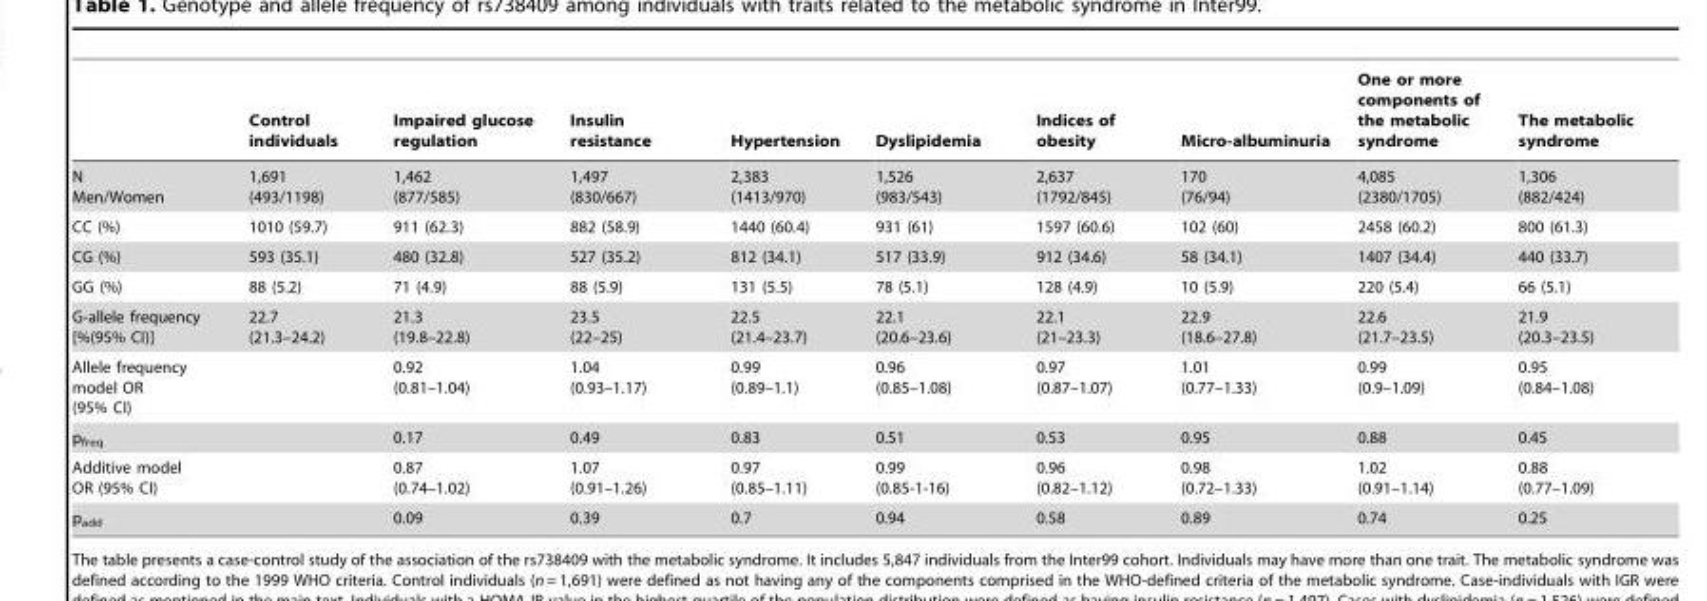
<table><thead><tr><td></td><td>Control individuals</td><td>Impaired glucose regulation</td><td>Insulin resistance</td><td>Hypertension</td><td>Dyslipidemia</td><td>Indices of obesity</td><td>Micro-albuminuria</td><td>One or more components of the metabolic syndrome</td><td>The metabolic syndrome</td></tr></thead><tbody><tr><td>N Men/Women</td><td>1,691 (493/1198)</td><td>1,462 (877/585)</td><td>1,497 (830/667)</td><td>2,383 (1413/970)</td><td>1,526 (983/543)</td><td>2,637 (1792/845)</td><td>170 (76/94)</td><td>4,085 (2380/1705)</td><td>1,306 (882/424)</td></tr><tr><td>CC (%)</td><td>1010 (59.7)</td><td>911 (62.3)</td><td>882 (58.9)</td><td>1440 (60.4)</td><td>931 (61)</td><td>1597 (60.6)</td><td>102 (60)</td><td>2458 (60.2)</td><td>800 (61.3)</td></tr><tr><td>CG (%)</td><td>593 (35.1)</td><td>480 (32.8)</td><td>527 (35.2)</td><td>812 (34.1)</td><td>517 (33.9)</td><td>912 (34.6)</td><td>58 (34.1)</td><td>1407 (34.4)</td><td>440 (33.7)</td></tr><tr><td>GG (%)</td><td>88 (5.2)</td><td>71 (4.9)</td><td>88 (5.9)</td><td>131 (5.5)</td><td>78 (5.1)</td><td>128 (4.9)</td><td>10 (5.9)</td><td>220 (5.4)</td><td>66 (5.1)</td></tr><tr><td>G-allele frequency [%(95% CI)]</td><td>22.7 (21.3–24.2)</td><td>21.3 (19.8–22.8)</td><td>23.5 (22–25)</td><td>22.5 (21.4–23.7)</td><td>22.1 (20.6–23.6)</td><td>22.1 (21–23.3)</td><td>22.9 (18.6–27.8)</td><td>22.6 (21.7–23.5)</td><td>21.9 (20.3–23.5)</td></tr><tr><td>Allele frequency model OR (95% CI)</td><td></td><td>0.92 (0.81–1.04)</td><td>1.04 (0.93–1.17)</td><td>0.99 (0.89–1.1)</td><td>0.96 (0.85–1.08)</td><td>0.97 (0.87–1.07)</td><td>1.01 (0.77–1.33)</td><td>0.99 (0.9–1.09)</td><td>0.95 (0.84–1.08)</td></tr><tr><td>p<sub>freq</sub></td><td></td><td>0.17</td><td>0.49</td><td>0.83</td><td>0.51</td><td>0.53</td><td>0.95</td><td>0.88</td><td>0.45</td></tr><tr><td>Additive model OR (95% CI)</td><td></td><td>0.87 (0.74–1.02)</td><td>1.07 (0.91–1.26)</td><td>0.97 (0.85–1.11)</td><td>0.99 (0.85-1-16)</td><td>0.96 (0.82–1.12)</td><td>0.98 (0.72–1.33)</td><td>1.02 (0.91–1.14)</td><td>0.88 (0.77–1.09)</td></tr><tr><td>p<sub>add</sub></td><td></td><td>0.09</td><td>0.39</td><td>0.7</td><td>0.94</td><td>0.58</td><td>0.89</td><td>0.74</td><td>0.25</td></tr></tbody></table>